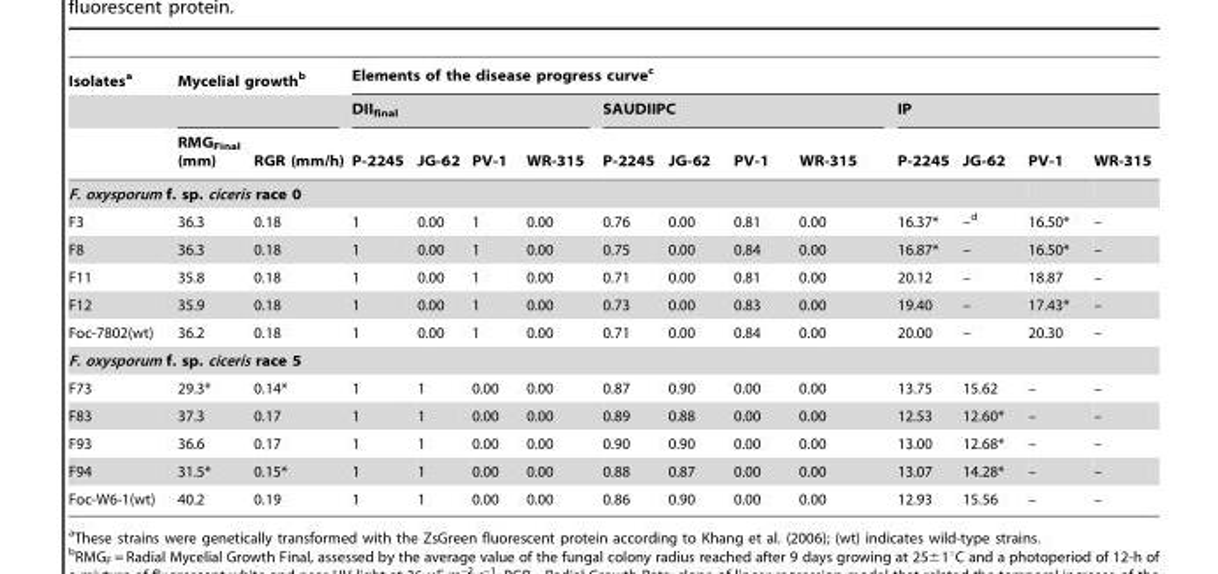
<table><thead><tr><td rowspan="3">Isolates<sup>a</sup></td><td colspan="2">Mycelial growth<sup>b</sup></td><td colspan="12">Elements of the disease progress curve<sup>c</sup></td></tr><tr><td rowspan="2">RMG<sub>Final</sub> (mm)</td><td rowspan="2">RGR (mm/h)</td><td colspan="4">DII<sub>final</sub></td><td colspan="4">SAUDIIPC</td><td colspan="4">IP</td></tr><tr><td>P-2245</td><td>JG-62</td><td>PV-1</td><td>WR-315</td><td>P-2245</td><td>JG-62</td><td>PV-1</td><td>WR-315</td><td>P-2245</td><td>JG-62</td><td>PV-1</td><td>WR-315</td></tr></thead><tbody><tr><td colspan="15">F. oxysporum f. sp. ciceris race 0</td></tr><tr><td>F3</td><td>36.3</td><td>0.18</td><td>1</td><td>0.00</td><td>1</td><td>0.00</td><td>0.76</td><td>0.00</td><td>0.81</td><td>0.00</td><td>16.37*</td><td>–d</td><td>16.50*</td><td>–</td></tr><tr><td>F8</td><td>36.3</td><td>0.18</td><td>1</td><td>0.00</td><td>1</td><td>0.00</td><td>0.75</td><td>0.00</td><td>0.84</td><td>0.00</td><td>16.87*</td><td>–</td><td>16.50*</td><td>–</td></tr><tr><td>F11</td><td>35.8</td><td>0.18</td><td>1</td><td>0.00</td><td>1</td><td>0.00</td><td>0.71</td><td>0.00</td><td>0.81</td><td>0.00</td><td>20.12</td><td>–</td><td>18.87</td><td>–</td></tr><tr><td>F12</td><td>35.9</td><td>0.18</td><td>1</td><td>0.00</td><td>1</td><td>0.00</td><td>0.73</td><td>0.00</td><td>0.83</td><td>0.00</td><td>19.40</td><td>–</td><td>17.43*</td><td>–</td></tr><tr><td>Foc-7802(wt)</td><td>36.2</td><td>0.18</td><td>1</td><td>0.00</td><td>1</td><td>0.00</td><td>0.71</td><td>0.00</td><td>0.84</td><td>0.00</td><td>20.00</td><td>–</td><td>20.30</td><td>–</td></tr><tr><td colspan="15">F. oxysporum f. sp. ciceris race 5</td></tr><tr><td>F73</td><td>29.3*</td><td>0.14*</td><td>1</td><td>1</td><td>0.00</td><td>0.00</td><td>0.87</td><td>0.90</td><td>0.00</td><td>0.00</td><td>13.75</td><td>15.62</td><td>–</td><td>–</td></tr><tr><td>F83</td><td>37.3</td><td>0.17</td><td>1</td><td>1</td><td>0.00</td><td>0.00</td><td>0.89</td><td>0.88</td><td>0.00</td><td>0.00</td><td>12.53</td><td>12.60*</td><td>–</td><td>–</td></tr><tr><td>F93</td><td>36.6</td><td>0.17</td><td>1</td><td>1</td><td>0.00</td><td>0.00</td><td>0.90</td><td>0.90</td><td>0.00</td><td>0.00</td><td>13.00</td><td>12.68*</td><td>–</td><td>–</td></tr><tr><td>F94</td><td>31.5*</td><td>0.15*</td><td>1</td><td>1</td><td>0.00</td><td>0.00</td><td>0.88</td><td>0.87</td><td>0.00</td><td>0.00</td><td>13.07</td><td>14.28*</td><td>–</td><td>–</td></tr><tr><td>Foc-W6-1(wt)</td><td>40.2</td><td>0.19</td><td>1</td><td>1</td><td>0.00</td><td>0.00</td><td>0.86</td><td>0.90</td><td>0.00</td><td>0.00</td><td>12.93</td><td>15.56</td><td>–</td><td>–</td></tr></tbody></table>